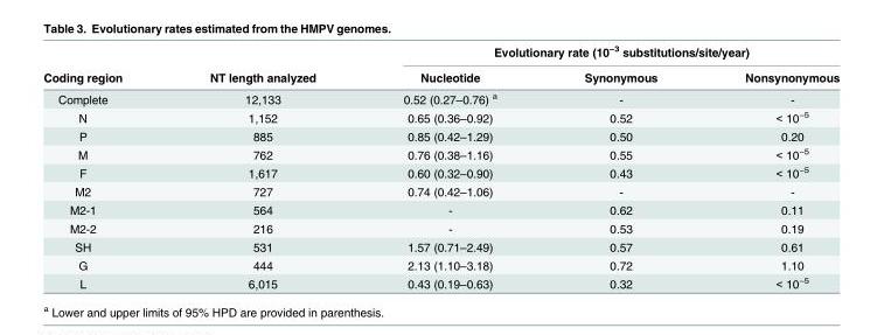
<table><thead><tr><td rowspan="2">Coding region</td><td rowspan="2">NT length analyzed</td><td colspan="3">Evolutionary rate (10<sup>−3</sup> substitutions/site/year)</td></tr><tr><td>Nucleotide</td><td>Synonymous</td><td>Nonsynonymous</td></tr></thead><tbody><tr><td>Complete</td><td>12,133</td><td>0.52 (0.27–0.76) <sup>a</sup></td><td>-</td><td>-</td></tr><tr><td>N</td><td>1,152</td><td>0.65 (0.36–0.92)</td><td>0.52</td><td>&lt; 10<sup>−5</sup></td></tr><tr><td>P</td><td>885</td><td>0.85 (0.42–1.29)</td><td>0.50</td><td>0.20</td></tr><tr><td>M</td><td>762</td><td>0.76 (0.38–1.16)</td><td>0.55</td><td>&lt; 10<sup>−5</sup></td></tr><tr><td>F</td><td>1,617</td><td>0.60 (0.32–0.90)</td><td>0.43</td><td>&lt; 10<sup>−5</sup></td></tr><tr><td>M2</td><td>727</td><td>0.74 (0.42–1.06)</td><td>-</td><td>-</td></tr><tr><td>M2-1</td><td>564</td><td>-</td><td>0.62</td><td>0.11</td></tr><tr><td>M2-2</td><td>216</td><td>-</td><td>0.53</td><td>0.19</td></tr><tr><td>SH</td><td>531</td><td>1.57 (0.71–2.49)</td><td>0.57</td><td>0.61</td></tr><tr><td>G</td><td>444</td><td>2.13 (1.10–3.18)</td><td>0.72</td><td>1.10</td></tr><tr><td>L</td><td>6,015</td><td>0.43 (0.19–0.63)</td><td>0.32</td><td>&lt; 10<sup>−5</sup></td></tr></tbody></table>